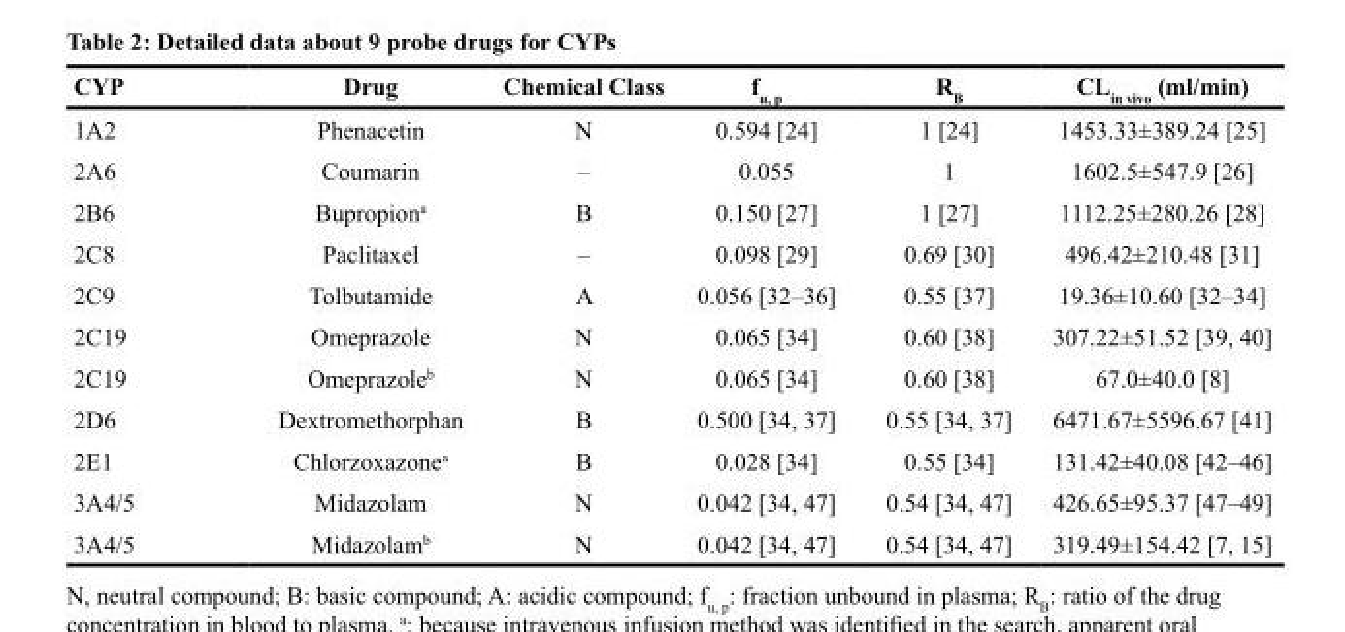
<table><thead><tr><td>CYP</td><td>Drug</td><td>Chemical Class</td><td>f<sub>u, p</sub></td><td>R<sub>B</sub></td><td>CL<sub>in vivo</sub> (ml/min)</td></tr></thead><tbody><tr><td>1A2</td><td>Phenacetin</td><td>N</td><td>0.594 [24]</td><td>1 [24]</td><td>1453.33±389.24 [25]</td></tr><tr><td>2A6</td><td>Coumarin</td><td>–</td><td>0.055</td><td>1</td><td>1602.5±547.9 [26]</td></tr><tr><td>2B6</td><td>Bupropion<sup>a</sup></td><td>B</td><td>0.150 [27]</td><td>1 [27]</td><td>1112.25±280.26 [28]</td></tr><tr><td>2C8</td><td>Paclitaxel</td><td>–</td><td>0.098 [29]</td><td>0.69 [30]</td><td>496.42±210.48 [31]</td></tr><tr><td>2C9</td><td>Tolbutamide</td><td>A</td><td>0.056 [32–36]</td><td>0.55 [37]</td><td>19.36±10.60 [32–34]</td></tr><tr><td>2C19</td><td>Omeprazole</td><td>N</td><td>0.065 [34]</td><td>0.60 [38]</td><td>307.22±51.52 [39, 40]</td></tr><tr><td>2C19</td><td>Omeprazole<sup>b</sup></td><td>N</td><td>0.065 [34]</td><td>0.60 [38]</td><td>67.0±40.0 [8]</td></tr><tr><td>2D6</td><td>Dextromethorphan</td><td>B</td><td>0.500 [34, 37]</td><td>0.55 [34, 37]</td><td>6471.67±5596.67 [41]</td></tr><tr><td>2E1</td><td>Chlorzoxazone<sup>a</sup></td><td>B</td><td>0.028 [34]</td><td>0.55 [34]</td><td>131.42±40.08 [42–46]</td></tr><tr><td>3A4/5</td><td>Midazolam</td><td>N</td><td>0.042 [34, 47]</td><td>0.54 [34, 47]</td><td>426.65±95.37 [47–49]</td></tr><tr><td>3A4/5</td><td>Midazolam<sup>b</sup></td><td>N</td><td>0.042 [34, 47]</td><td>0.54 [34, 47]</td><td>319.49±154.42 [7, 15]</td></tr></tbody></table>